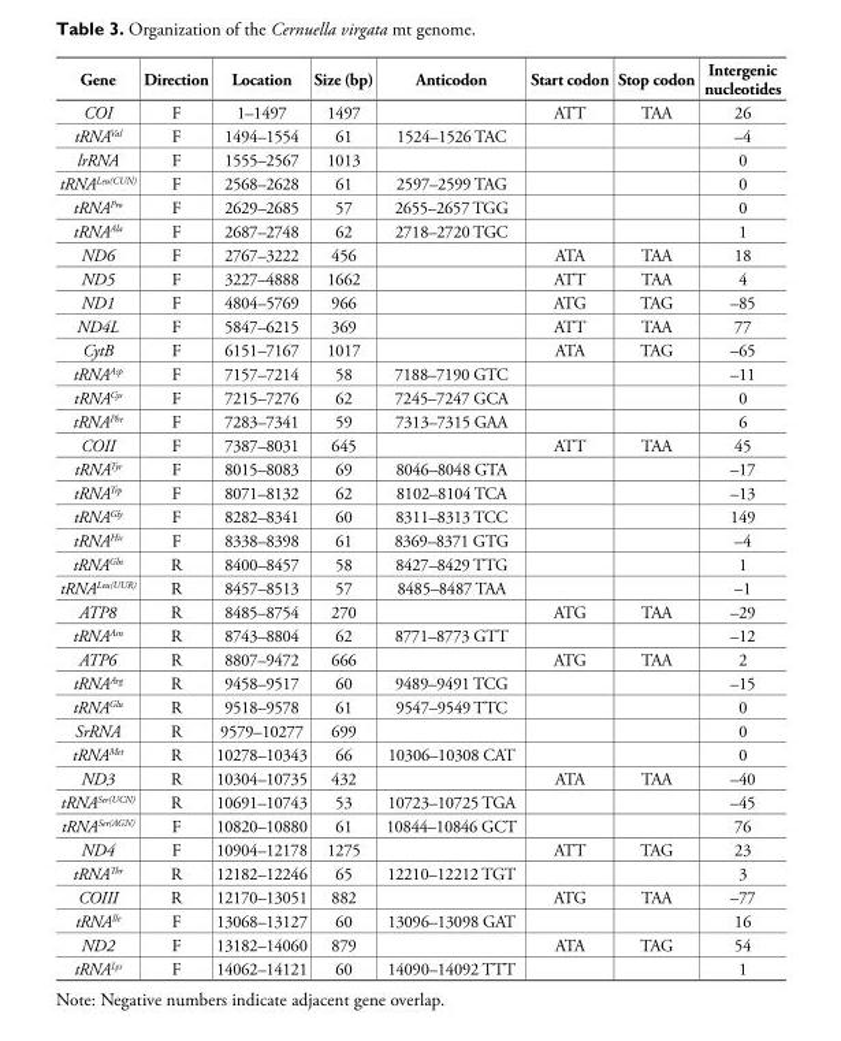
<table><thead><tr><td>Gene</td><td>Direction</td><td>Location</td><td>Size (bp)</td><td>Anticodon</td><td>Start codon</td><td>Stop codon</td><td>Intergenic nucleotides</td></tr></thead><tbody><tr><td>COI</td><td>F</td><td>1–1497</td><td>1497</td><td></td><td>ATT</td><td>TAA</td><td>26</td></tr><tr><td>tRNA<sup>Val</sup></td><td>F</td><td>1494–1554</td><td>61</td><td>1524–1526 TAC</td><td></td><td></td><td>–4</td></tr><tr><td>lrRNA</td><td>F</td><td>1555–2567</td><td>1013</td><td></td><td></td><td></td><td>0</td></tr><tr><td>tRNA<sup>Leu(CUN)</sup></td><td>F</td><td>2568–2628</td><td>61</td><td>2597–2599 TAG</td><td></td><td></td><td>0</td></tr><tr><td>tRNA<sup>Pro</sup></td><td>F</td><td>2629–2685</td><td>57</td><td>2655–2657 TGG</td><td></td><td></td><td>0</td></tr><tr><td>tRNA<sup>Ala</sup></td><td>F</td><td>2687–2748</td><td>62</td><td>2718–2720 TGC</td><td></td><td></td><td>1</td></tr><tr><td>ND6</td><td>F</td><td>2767–3222</td><td>456</td><td></td><td>ATA</td><td>TAA</td><td>18</td></tr><tr><td>ND5</td><td>F</td><td>3227–4888</td><td>1662</td><td></td><td>ATT</td><td>TAA</td><td>4</td></tr><tr><td>ND1</td><td>F</td><td>4804–5769</td><td>966</td><td></td><td>ATG</td><td>TAG</td><td>–85</td></tr><tr><td>ND4L</td><td>F</td><td>5847–6215</td><td>369</td><td></td><td>ATT</td><td>TAA</td><td>77</td></tr><tr><td>CytB</td><td>F</td><td>6151–7167</td><td>1017</td><td></td><td>ATA</td><td>TAG</td><td>–65</td></tr><tr><td>tRNA<sup>Asp</sup></td><td>F</td><td>7157–7214</td><td>58</td><td>7188–7190 GTC</td><td></td><td></td><td>–11</td></tr><tr><td>tRNA<sup>Cys</sup></td><td>F</td><td>7215–7276</td><td>62</td><td>7245–7247 GCA</td><td></td><td></td><td>0</td></tr><tr><td>tRNA<sup>Phe</sup></td><td>F</td><td>7283–7341</td><td>59</td><td>7313–7315 GAA</td><td></td><td></td><td>6</td></tr><tr><td>COII</td><td>F</td><td>7387–8031</td><td>645</td><td></td><td>ATT</td><td>TAA</td><td>45</td></tr><tr><td>tRNA<sup>Tyr</sup></td><td>F</td><td>8015–8083</td><td>69</td><td>8046–8048 GTA</td><td></td><td></td><td>–17</td></tr><tr><td>tRNA<sup>Trp</sup></td><td>F</td><td>8071–8132</td><td>62</td><td>8102–8104 TCA</td><td></td><td></td><td>–13</td></tr><tr><td>tRNA<sup>Gly</sup></td><td>F</td><td>8282–8341</td><td>60</td><td>8311–8313 TCC</td><td></td><td></td><td>149</td></tr><tr><td>tRNA<sup>His</sup></td><td>F</td><td>8338–8398</td><td>61</td><td>8369–8371 GTG</td><td></td><td></td><td>–4</td></tr><tr><td>tRNA<sup>Gln</sup></td><td>R</td><td>8400–8457</td><td>58</td><td>8427–8429 TTG</td><td></td><td></td><td>1</td></tr><tr><td>tRNA<sup>Leu(UUR)</sup></td><td>R</td><td>8457–8513</td><td>57</td><td>8485–8487 TAA</td><td></td><td></td><td>–1</td></tr><tr><td>ATP8</td><td>R</td><td>8485–8754</td><td>270</td><td></td><td>ATG</td><td>TAA</td><td>–29</td></tr><tr><td>tRNA<sup>Asn</sup></td><td>R</td><td>8743–8804</td><td>62</td><td>8771–8773 GTT</td><td></td><td></td><td>–12</td></tr><tr><td>ATP6</td><td>R</td><td>8807–9472</td><td>666</td><td></td><td>ATG</td><td>TAA</td><td>2</td></tr><tr><td>tRNA<sup>Arg</sup></td><td>R</td><td>9458–9517</td><td>60</td><td>9489–9491 TCG</td><td></td><td></td><td>–15</td></tr><tr><td>tRNA<sup>Glu</sup></td><td>R</td><td>9518–9578</td><td>61</td><td>9547–9549 TTC</td><td></td><td></td><td>0</td></tr><tr><td>SrRNA</td><td>R</td><td>9579–10277</td><td>699</td><td></td><td></td><td></td><td>0</td></tr><tr><td>tRNA<sup>Met</sup></td><td>R</td><td>10278–10343</td><td>66</td><td>10306–10308 CAT</td><td></td><td></td><td>0</td></tr><tr><td>ND3</td><td>R</td><td>10304–10735</td><td>432</td><td></td><td>ATA</td><td>TAA</td><td>–40</td></tr><tr><td>tRNA<sup>Ser(UCN)</sup></td><td>R</td><td>10691–10743</td><td>53</td><td>10723–10725 TGA</td><td></td><td></td><td>–45</td></tr><tr><td>tRNA<sup>Ser(AGN)</sup></td><td>F</td><td>10820–10880</td><td>61</td><td>10844–10846 GCT</td><td></td><td></td><td>76</td></tr><tr><td>ND4</td><td>F</td><td>10904–12178</td><td>1275</td><td></td><td>ATT</td><td>TAG</td><td>23</td></tr><tr><td>tRNA<sup>Thr</sup></td><td>R</td><td>12182–12246</td><td>65</td><td>12210–12212 TGT</td><td></td><td></td><td>3</td></tr><tr><td>COIII</td><td>R</td><td>12170–13051</td><td>882</td><td></td><td>ATG</td><td>TAA</td><td>–77</td></tr><tr><td>tRNA<sup>Ile</sup></td><td>F</td><td>13068–13127</td><td>60</td><td>13096–13098 GAT</td><td></td><td></td><td>16</td></tr><tr><td>ND2</td><td>F</td><td>13182–14060</td><td>879</td><td></td><td>ATA</td><td>TAG</td><td>54</td></tr><tr><td>tRNA<sup>Lys</sup></td><td>F</td><td>14062–14121</td><td>60</td><td>14090–14092 TTT</td><td></td><td></td><td>1</td></tr></tbody></table>